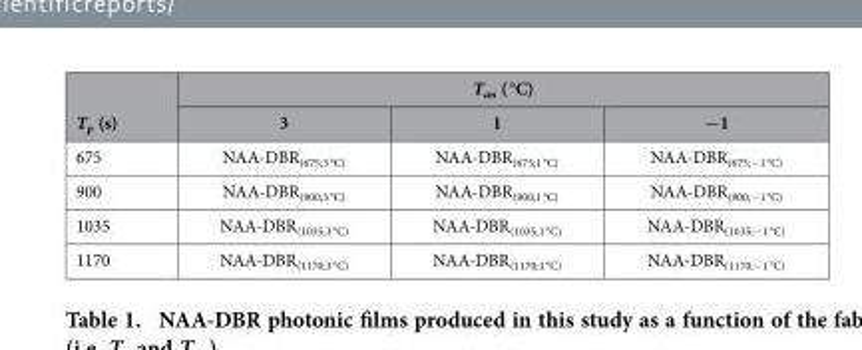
<table><thead><tr><td rowspan="2">T<sub>p</sub> (s)</td><td colspan="3">T<sub>an</sub> ( °C)</td></tr><tr><td>3</td><td>1</td><td>−1</td></tr></thead><tbody><tr><td>675</td><td>NAA-DBR<sub>(675;3 °C)</sub></td><td>NAA-DBR<sub>(675;1 °C)</sub></td><td>NAA-DBR<sub>(675;−1 °C)</sub></td></tr><tr><td>900</td><td>NAA-DBR<sub>(900;3 °C)</sub></td><td>NAA-DBR<sub>(900;1 °C)</sub></td><td>NAA-DBR<sub>(900;−1 °C)</sub></td></tr><tr><td>1035</td><td>NAA-DBR<sub>(1035;3 °C)</sub></td><td>NAA-DBR<sub>(1035;1 °C)</sub></td><td>NAA-DBR<sub>(1035;−1 °C)</sub></td></tr><tr><td>1170</td><td>NAA-DBR<sub>(1170;3 °C)</sub></td><td>NAA-DBR<sub>(1170;1 °C)</sub></td><td>NAA-DBR<sub>(1170;−1 °C)</sub></td></tr></tbody></table>